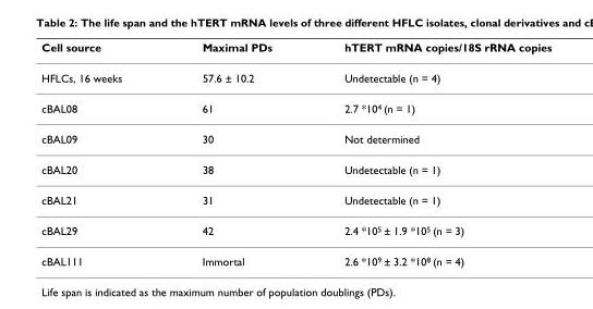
<table><thead><tr><td>Cell source</td><td>Maximal PDs</td><td>hTERT mRNA copies/18S rRNA copies</td></tr></thead><tbody><tr><td>HFLCs, 16 weeks</td><td>57.6 ± 10.2</td><td>Undetectable (n = 4)</td></tr><tr><td>cBAL08</td><td>61</td><td>2.7 *10<sup>4</sup> (n = 1)</td></tr><tr><td>cBAL09</td><td>30</td><td>Not determined</td></tr><tr><td>cBAL20</td><td>38</td><td>Undetectable (n = 1)</td></tr><tr><td>cBAL21</td><td>31</td><td>Undetectable (n = 1)</td></tr><tr><td>cBAL29</td><td>42</td><td>2.4 *10<sup>5</sup> ± 1.9 *10<sup>5</sup> (n = 3)</td></tr><tr><td>cBAL111</td><td>Immortal</td><td>2.6 *10<sup>9</sup> ± 3.2 *10<sup>8</sup> (n = 4)</td></tr></tbody></table>